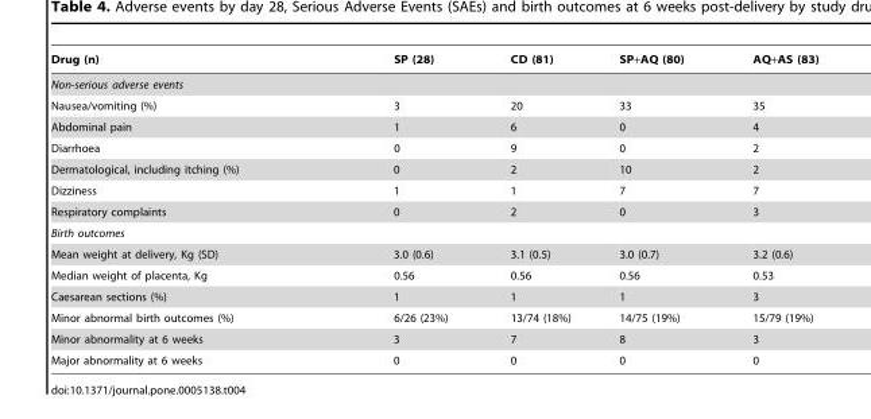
<table><thead><tr><td>Drug (n)</td><td>SP (28)</td><td>CD (81)</td><td>SP+AQ (80)</td><td>AQ+AS (83)</td></tr></thead><tbody><tr><td colspan="5">Non-serious adverse events</td></tr><tr><td>Nausea/vomiting (%)</td><td>3</td><td>20</td><td>33</td><td>35</td></tr><tr><td>Abdominal pain</td><td>1</td><td>6</td><td>0</td><td>4</td></tr><tr><td>Diarrhoea</td><td>0</td><td>9</td><td>0</td><td>2</td></tr><tr><td>Dermatological, including itching (%)</td><td>0</td><td>2</td><td>10</td><td>2</td></tr><tr><td>Dizziness</td><td>1</td><td>1</td><td>7</td><td>7</td></tr><tr><td>Respiratory complaints</td><td>0</td><td>2</td><td>0</td><td>3</td></tr><tr><td colspan="5">Birth outcomes</td></tr><tr><td>Mean weight at delivery, Kg (SD)</td><td>3.0 (0.6)</td><td>3.1 (0.5)</td><td>3.0 (0.7)</td><td>3.2 (0.6)</td></tr><tr><td>Median weight of placenta, Kg</td><td>0.56</td><td>0.56</td><td>0.56</td><td>0.53</td></tr><tr><td>Caesarean sections (%)</td><td>1</td><td>1</td><td>1</td><td>3</td></tr><tr><td>Minor abnormal birth outcomes (%)</td><td>6/26 (23%)</td><td>13/74 (18%)</td><td>14/75 (19%)</td><td>15/79 (19%)</td></tr><tr><td>Minor abnormality at 6 weeks</td><td>3</td><td>7</td><td>8</td><td>3</td></tr><tr><td>Major abnormality at 6 weeks</td><td>0</td><td>0</td><td>0</td><td>0</td></tr></tbody></table>